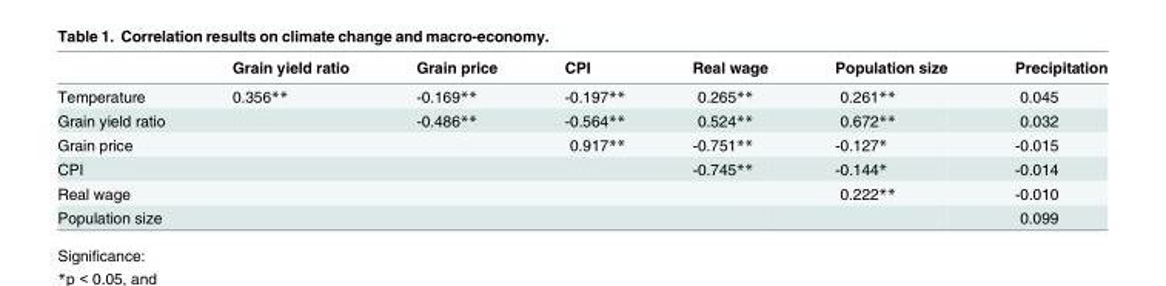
<table><thead><tr><td></td><td>Grain yield ratio</td><td>Grain price</td><td>CPI</td><td>Real wage</td><td>Population size</td><td>Precipitation</td></tr></thead><tbody><tr><td>Temperature</td><td>0.356**</td><td>-0.169**</td><td>-0.197**</td><td>0.265**</td><td>0.261**</td><td>0.045</td></tr><tr><td>Grain yield ratio</td><td></td><td>-0.486**</td><td>-0.564**</td><td>0.524**</td><td>0.672**</td><td>0.032</td></tr><tr><td>Grain price</td><td></td><td></td><td>0.917**</td><td>-0.751**</td><td>-0.127*</td><td>-0.015</td></tr><tr><td>CPI</td><td></td><td></td><td></td><td>-0.745**</td><td>-0.144*</td><td>-0.014</td></tr><tr><td>Real wage</td><td></td><td></td><td></td><td></td><td>0.222**</td><td>-0.010</td></tr><tr><td>Population size</td><td></td><td></td><td></td><td></td><td></td><td>0.099</td></tr></tbody></table>